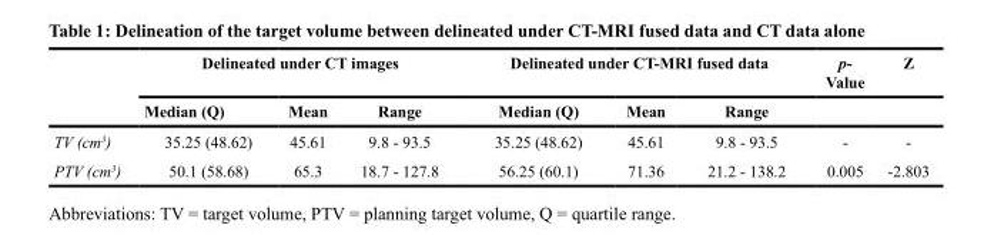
<table><thead><tr><td rowspan="2"></td><td colspan="3">Delineated under CT images</td><td colspan="3">Delineated under CT-MRI fused data</td><td rowspan="2">p- Value</td><td rowspan="2">Z</td></tr><tr><td>Median (Q)</td><td>Mean</td><td>Range</td><td>Median (Q)</td><td>Mean</td><td>Range</td></tr></thead><tbody><tr><td>TV (cm<sup>3</sup>)</td><td>35.25 (48.62)</td><td>45.61</td><td>9.8 - 93.5</td><td>35.25 (48.62)</td><td>45.61</td><td>9.8 - 93.5</td><td>-</td><td>-</td></tr><tr><td>PTV (cm<sup>3</sup>)</td><td>50.1 (58.68)</td><td>65.3</td><td>18.7 - 127.8</td><td>56.25 (60.1)</td><td>71.36</td><td>21.2 - 138.2</td><td>0.005</td><td>-2.803</td></tr></tbody></table>